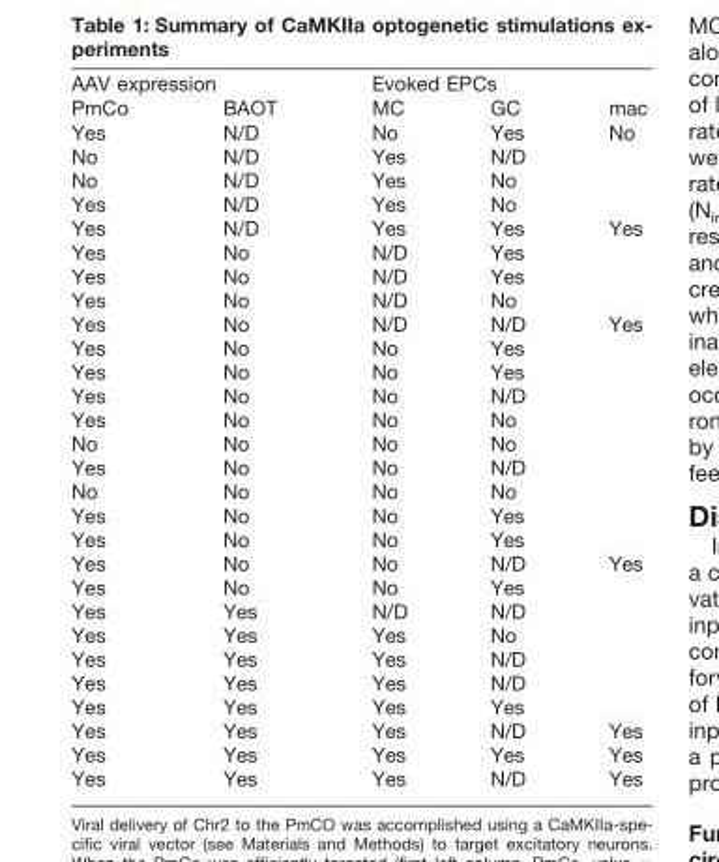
<table><thead><tr><td colspan="2">AAV expression</td><td colspan="3">Evoked EPCs</td></tr><tr><td>PmCo</td><td>BAOT</td><td>MC</td><td>GC</td><td>mac</td></tr></thead><tbody><tr><td>Yes</td><td>N/D</td><td>No</td><td>Yes</td><td>No</td></tr><tr><td>No</td><td>N/D</td><td>Yes</td><td>N/D</td><td></td></tr><tr><td>No</td><td>N/D</td><td>Yes</td><td>No</td><td></td></tr><tr><td>Yes</td><td>N/D</td><td>Yes</td><td>No</td><td></td></tr><tr><td>Yes</td><td>N/D</td><td>Yes</td><td>Yes</td><td>Yes</td></tr><tr><td>Yes</td><td>No</td><td>N/D</td><td>Yes</td><td></td></tr><tr><td>Yes</td><td>No</td><td>N/D</td><td>Yes</td><td></td></tr><tr><td>Yes</td><td>No</td><td>N/D</td><td>No</td><td></td></tr><tr><td>Yes</td><td>No</td><td>N/D</td><td>N/D</td><td>Yes</td></tr><tr><td>Yes</td><td>No</td><td>No</td><td>Yes</td><td></td></tr><tr><td>Yes</td><td>No</td><td>No</td><td>Yes</td><td></td></tr><tr><td>Yes</td><td>No</td><td>No</td><td>N/D</td><td></td></tr><tr><td>Yes</td><td>No</td><td>No</td><td>No</td><td></td></tr><tr><td>No</td><td>No</td><td>No</td><td>No</td><td></td></tr><tr><td>Yes</td><td>No</td><td>No</td><td>N/D</td><td></td></tr><tr><td>No</td><td>No</td><td>No</td><td>No</td><td></td></tr><tr><td>Yes</td><td>No</td><td>No</td><td>Yes</td><td></td></tr><tr><td>Yes</td><td>No</td><td>No</td><td>Yes</td><td></td></tr><tr><td>Yes</td><td>No</td><td>No</td><td>N/D</td><td>Yes</td></tr><tr><td>Yes</td><td>No</td><td>No</td><td>Yes</td><td></td></tr><tr><td>Yes</td><td>Yes</td><td>N/D</td><td>N/D</td><td></td></tr><tr><td>Yes</td><td>Yes</td><td>Yes</td><td>No</td><td></td></tr><tr><td>Yes</td><td>Yes</td><td>Yes</td><td>N/D</td><td></td></tr><tr><td>Yes</td><td>Yes</td><td>Yes</td><td>N/D</td><td></td></tr><tr><td>Yes</td><td>Yes</td><td>Yes</td><td>Yes</td><td></td></tr><tr><td>Yes</td><td>Yes</td><td>Yes</td><td>N/D</td><td>Yes</td></tr><tr><td>Yes</td><td>Yes</td><td>Yes</td><td>Yes</td><td>Yes</td></tr><tr><td>Yes</td><td>Yes</td><td>Yes</td><td>N/D</td><td>Yes</td></tr></tbody></table>